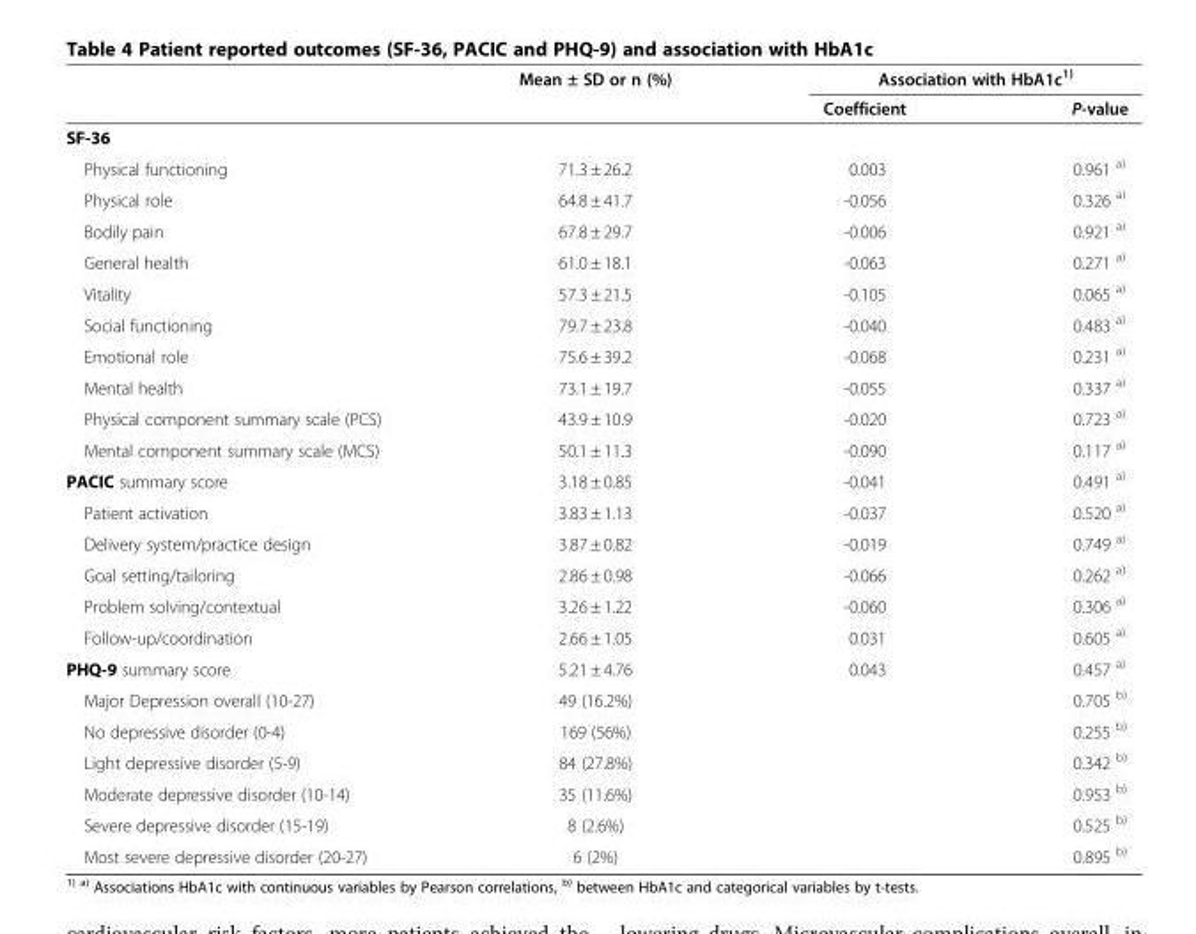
<table><thead><tr><td rowspan="2"></td><td rowspan="2">Mean ± SD or n (%)</td><td colspan="2">Association with HbA1c<sup>1)</sup></td></tr><tr><td>Coefficient</td><td>P-value</td></tr></thead><tbody><tr><td colspan="4">SF-36</td></tr><tr><td>Physical functioning</td><td>71.3 ± 26.2</td><td>0.003</td><td>0.961 <sup>a)</sup></td></tr><tr><td>Physical role</td><td>64.8 ± 41.7</td><td>-0.056</td><td>0.326 <sup>a)</sup></td></tr><tr><td>Bodily pain</td><td>67.8 ± 29.7</td><td>-0.006</td><td>0.921 <sup>a)</sup></td></tr><tr><td>General health</td><td>61.0 ± 18.1</td><td>-0.063</td><td>0.271 <sup>a)</sup></td></tr><tr><td>Vitality</td><td>57.3 ± 21.5</td><td>-0.105</td><td>0.065 <sup>a)</sup></td></tr><tr><td>Social functioning</td><td>79.7 ± 23.8</td><td>-0.040</td><td>0.483 <sup>a)</sup></td></tr><tr><td>Emotional role</td><td>75.6 ± 39.2</td><td>-0.068</td><td>0.231 <sup>a)</sup></td></tr><tr><td>Mental health</td><td>73.1 ± 19.7</td><td>-0.055</td><td>0.337 <sup>a)</sup></td></tr><tr><td>Physical component summary scale (PCS)</td><td>43.9 ± 10.9</td><td>-0.020</td><td>0.723 <sup>a)</sup></td></tr><tr><td>Mental component summary scale (MCS)</td><td>50.1 ± 11.3</td><td>-0.090</td><td>0.117 <sup>a)</sup></td></tr><tr><td>PACIC summary score</td><td>3.18 ± 0.85</td><td>-0.041</td><td>0.491 <sup>a)</sup></td></tr><tr><td>Patient activation</td><td>3.83 ± 1.13</td><td>-0.037</td><td>0.520 <sup>a)</sup></td></tr><tr><td>Delivery system/practice design</td><td>3.87 ± 0.82</td><td>-0.019</td><td>0.749 <sup>a)</sup></td></tr><tr><td>Goal setting/tailoring</td><td>2.86 ± 0.98</td><td>-0.066</td><td>0.262 <sup>a)</sup></td></tr><tr><td>Problem solving/contextual</td><td>3.26 ± 1.22</td><td>-0.060</td><td>0.306 <sup>a)</sup></td></tr><tr><td>Follow-up/coordination</td><td>2.66 ± 1.05</td><td>0.031</td><td>0.605 <sup>a)</sup></td></tr><tr><td>PHQ-9 summary score</td><td>5.21 ± 4.76</td><td>0.043</td><td>0.457 <sup>a)</sup></td></tr><tr><td>Major Depression overall (10-27)</td><td>49 (16.2%)</td><td></td><td>0.705 <sup>b)</sup></td></tr><tr><td>No depressive disorder (0-4)</td><td>169 (56%)</td><td></td><td>0.255 <sup>b)</sup></td></tr><tr><td>Light depressive disorder (5-9)</td><td>84 (27.8%)</td><td></td><td>0.342 <sup>b)</sup></td></tr><tr><td>Moderate depressive disorder (10-14)</td><td>35 (11.6%)</td><td></td><td>0.953 <sup>b)</sup></td></tr><tr><td>Severe depressive disorder (15-19)</td><td>8 (2.6%)</td><td></td><td>0.525 <sup>b)</sup></td></tr><tr><td>Most severe depressive disorder (20-27)</td><td>6 (2%)</td><td></td><td>0.895 <sup>b)</sup></td></tr></tbody></table>